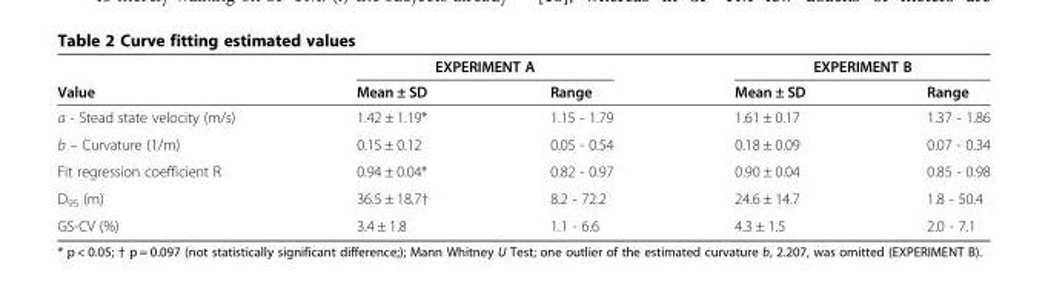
<table><thead><tr><td rowspan="2">Value</td><td colspan="2">EXPERIMENT A</td><td colspan="2">EXPERIMENT B</td></tr><tr><td>Mean ± SD</td><td>Range</td><td>Mean ± SD</td><td>Range</td></tr></thead><tbody><tr><td>a - Stead state velocity (m/s)</td><td>1.42 ± 1.19*</td><td>1.15 - 1.79</td><td>1.61 ± 0.17</td><td>1.37 - 1.86</td></tr><tr><td>b – Curvature (1/m)</td><td>0.15 ± 0.12</td><td>0.05 - 0.54</td><td>0.18 ± 0.09</td><td>0.07 - 0.34</td></tr><tr><td>Fit regression coefficient R</td><td>0.94 ± 0.04*</td><td>0.82 - 0.97</td><td>0.90 ± 0.04</td><td>0.85 - 0.98</td></tr><tr><td>D<sub>95</sub> (m)</td><td>36.5 ± 18.7†</td><td>8.2 - 72.2</td><td>24.6 ± 14.7</td><td>1.8 - 50.4</td></tr><tr><td>GS-CV (%)</td><td>3.4 ± 1.8</td><td>1.1 - 6.6</td><td>4.3 ± 1.5</td><td>2.0 - 7.1</td></tr></tbody></table>